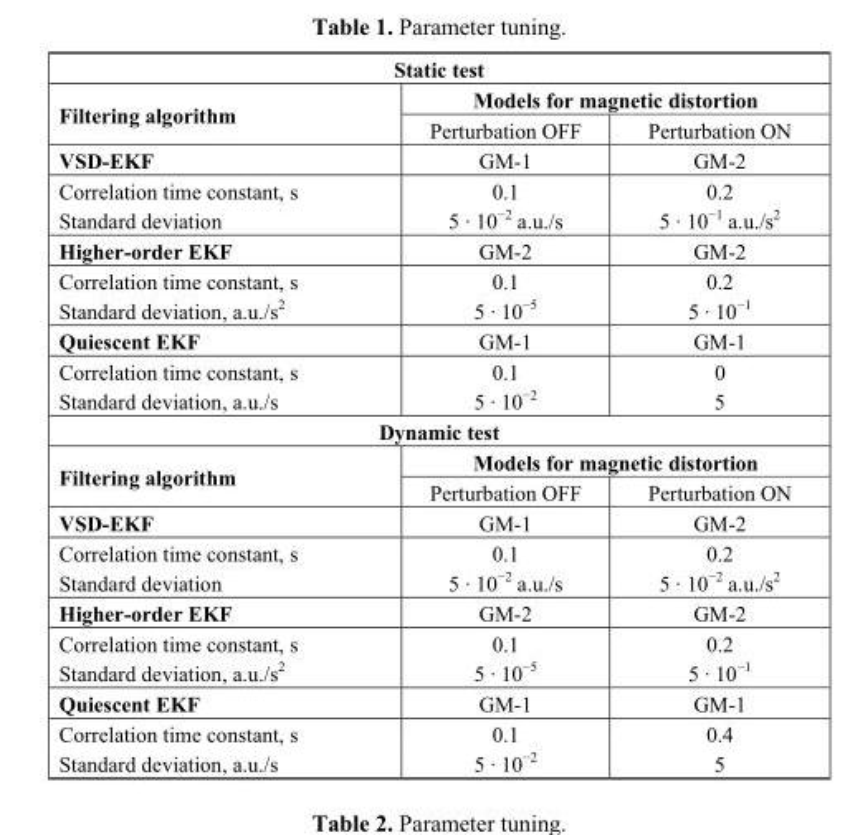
<table><thead><tr><td colspan="3">Static test</td></tr><tr><td rowspan="2">Filtering algorithm</td><td colspan="2">Models for magnetic distortion</td></tr><tr><td>Perturbation OFF</td><td>Perturbation ON</td></tr></thead><tbody><tr><td>VSD-EKF</td><td>GM-1</td><td>GM-2</td></tr><tr><td>Correlation time constant, s Standard deviation</td><td>0.1 5 · 10<sup>−2</sup> a.u./s</td><td>0.2 5 · 10<sup>−1</sup> a.u./s<sup>2</sup></td></tr><tr><td>Higher-order EKF</td><td>GM-2</td><td>GM-2</td></tr><tr><td>Correlation time constant, s Standard deviation, a.u./s<sup>2</sup></td><td>0.1 5 · 10<sup>−5</sup></td><td>0.2 5 · 10<sup>−1</sup></td></tr><tr><td>Quiescent EKF</td><td>GM-1</td><td>GM-1</td></tr><tr><td>Correlation time constant, s Standard deviation, a.u./s</td><td>0.1 5 · 10<sup>−2</sup></td><td>0 5</td></tr><tr><td colspan="3">Dynamic test</td></tr><tr><td rowspan="2">Filtering algorithm</td><td colspan="2">Models for magnetic distortion</td></tr><tr><td>Perturbation OFF</td><td>Perturbation ON</td></tr><tr><td>VSD-EKF</td><td>GM-1</td><td>GM-2</td></tr><tr><td>Correlation time constant, s Standard deviation</td><td>0.1 5 · 10<sup>−2</sup> a.u./s</td><td>0.2 5 · 10<sup>−2</sup> a.u./s<sup>2</sup></td></tr><tr><td>Higher-order EKF</td><td>GM-2</td><td>GM-2</td></tr><tr><td>Correlation time constant, s Standard deviation, a.u./s<sup>2</sup></td><td>0.1 5 · 10<sup>−5</sup></td><td>0.2 5 · 10<sup>−1</sup></td></tr><tr><td>Quiescent EKF</td><td>GM-1</td><td>GM-1</td></tr><tr><td>Correlation time constant, s Standard deviation, a.u./s</td><td>0.1 5 · 10<sup>−2</sup></td><td>0.4 5</td></tr></tbody></table>